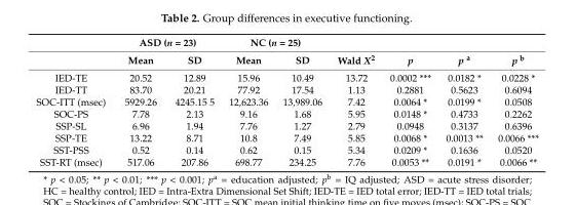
<table><thead><tr><td rowspan="2"></td><td colspan="2">ASD (n = 23)</td><td colspan="2">NC (n = 25)</td><td rowspan="2">Wald X<sup>2</sup></td><td rowspan="2">p</td><td rowspan="2">p <sup>a</sup></td><td rowspan="2">p <sup>b</sup></td></tr><tr><td>Mean</td><td>SD</td><td>Mean</td><td>SD</td></tr></thead><tbody><tr><td>IED-TE</td><td>20.52</td><td>12.89</td><td>15.96</td><td>10.49</td><td>13.72</td><td>0.0002 ***</td><td>0.0182 *</td><td>0.0228 *</td></tr><tr><td>IED-TT</td><td>83.70</td><td>20.21</td><td>77.92</td><td>17.54</td><td>1.13</td><td>0.2881</td><td>0.5623</td><td>0.6094</td></tr><tr><td>SOC-ITT (msec)</td><td>5929.26</td><td>4245.15 5</td><td>12,623.36</td><td>13,989.06</td><td>7.42</td><td>0.0064 *</td><td>0.0199 *</td><td>0.0508</td></tr><tr><td>SOC-PS</td><td>7.78</td><td>2.13</td><td>9.16</td><td>1.68</td><td>5.95</td><td>0.0148 *</td><td>0.4733</td><td>0.2262</td></tr><tr><td>SSP-SL</td><td>6.96</td><td>1.94</td><td>7.76</td><td>1.27</td><td>2.79</td><td>0.0948</td><td>0.3137</td><td>0.6396</td></tr><tr><td>SSP-TE</td><td>13.22</td><td>8.71</td><td>10.8</td><td>7.49</td><td>5.85</td><td>0.0068 *</td><td>0.0013 **</td><td>0.0066 ***</td></tr><tr><td>SST-PSS</td><td>0.52</td><td>0.14</td><td>0.62</td><td>0.15</td><td>5.34</td><td>0.0209 *</td><td>0.1636</td><td>0.0520</td></tr><tr><td>SST-RT (msec)</td><td>517.06</td><td>207.86</td><td>698.77</td><td>234.25</td><td>7.76</td><td>0.0053 **</td><td>0.0191 *</td><td>0.0066 **</td></tr></tbody></table>